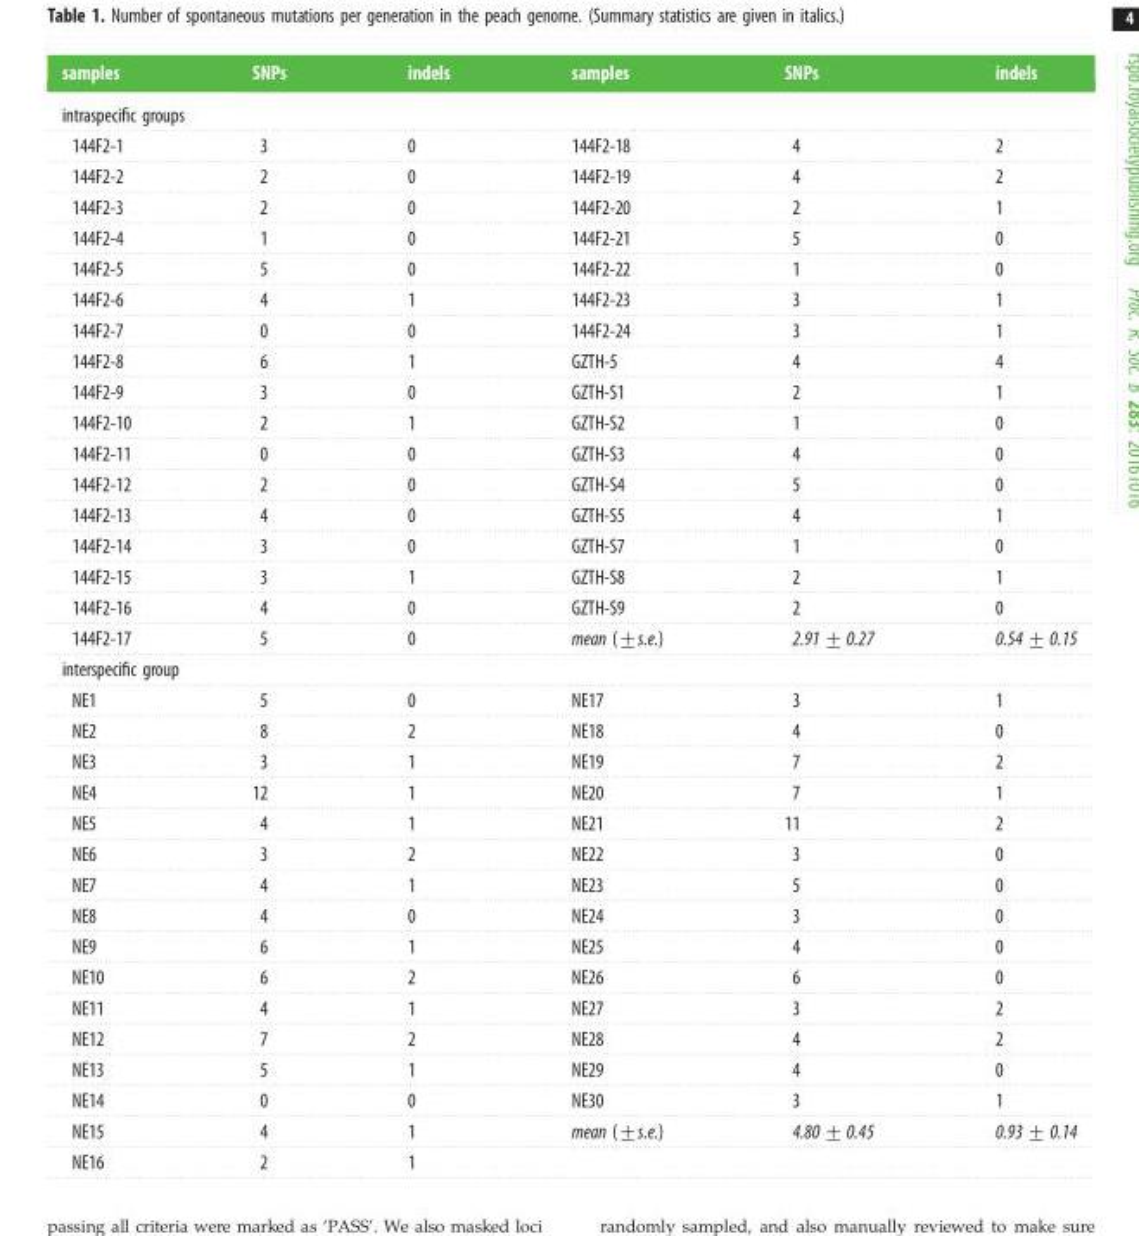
<table><thead><tr><td>samples</td><td>SNPs</td><td>indels</td><td>samples</td><td>SNPs</td><td>indels</td></tr></thead><tbody><tr><td colspan="6">intraspecific groups</td></tr><tr><td>144F2-1</td><td>3</td><td>0</td><td>144F2-18</td><td>4</td><td>2</td></tr><tr><td>144F2-2</td><td>2</td><td>0</td><td>144F2-19</td><td>4</td><td>2</td></tr><tr><td>144F2-3</td><td>2</td><td>0</td><td>144F2-20</td><td>2</td><td>1</td></tr><tr><td>144F2-4</td><td>1</td><td>0</td><td>144F2-21</td><td>5</td><td>0</td></tr><tr><td>144F2-5</td><td>5</td><td>0</td><td>144F2-22</td><td>1</td><td>0</td></tr><tr><td>144F2-6</td><td>4</td><td>1</td><td>144F2-23</td><td>3</td><td>1</td></tr><tr><td>144F2-7</td><td>0</td><td>0</td><td>144F2-24</td><td>3</td><td>1</td></tr><tr><td>144F2-8</td><td>6</td><td>1</td><td>GZTH-5</td><td>4</td><td>4</td></tr><tr><td>144F2-9</td><td>3</td><td>0</td><td>GZTH-S1</td><td>2</td><td>1</td></tr><tr><td>144F2-10</td><td>2</td><td>1</td><td>GZTH-S2</td><td>1</td><td>0</td></tr><tr><td>144F2-11</td><td>0</td><td>0</td><td>GZTH-S3</td><td>4</td><td>0</td></tr><tr><td>144F2-12</td><td>2</td><td>0</td><td>GZTH-S4</td><td>5</td><td>0</td></tr><tr><td>144F2-13</td><td>4</td><td>0</td><td>GZTH-S5</td><td>4</td><td>1</td></tr><tr><td>144F2-14</td><td>3</td><td>0</td><td>GZTH-S7</td><td>1</td><td>0</td></tr><tr><td>144F2-15</td><td>3</td><td>1</td><td>GZTH-S8</td><td>2</td><td>1</td></tr><tr><td>144F2-16</td><td>4</td><td>0</td><td>GZTH-S9</td><td>2</td><td>0</td></tr><tr><td>144F2-17</td><td>5</td><td>0</td><td>mean (+s.e.)</td><td>2.91+ 0.27</td><td>0.54+ 0.15</td></tr><tr><td colspan="6">interspecific group</td></tr><tr><td>NE1</td><td>5</td><td>0</td><td>NE17</td><td>3</td><td>1</td></tr><tr><td>NE2</td><td>8</td><td>2</td><td>NE18</td><td>4</td><td>0</td></tr><tr><td>NE3</td><td>3</td><td>1</td><td>NE19</td><td>7</td><td>2</td></tr><tr><td>NE4</td><td>12</td><td>1</td><td>NE20</td><td>7</td><td>1</td></tr><tr><td>NE5</td><td>4</td><td>1</td><td>NE21</td><td>11</td><td>2</td></tr><tr><td>NE6</td><td>3</td><td>2</td><td>NE22</td><td>3</td><td>0</td></tr><tr><td>NE7</td><td>4</td><td>1</td><td>NE23</td><td>5</td><td>0</td></tr><tr><td>NE8</td><td>4</td><td>0</td><td>NE24</td><td>3</td><td>0</td></tr><tr><td>NE9</td><td>6</td><td>1</td><td>NE25</td><td>4</td><td>0</td></tr><tr><td>NE10</td><td>6</td><td>2</td><td>NE26</td><td>6</td><td>0</td></tr><tr><td>NE11</td><td>4</td><td>1</td><td>NE27</td><td>3</td><td>2</td></tr><tr><td>NE12</td><td>7</td><td>2</td><td>NE28</td><td>4</td><td>2</td></tr><tr><td>NE13</td><td>5</td><td>1</td><td>NE29</td><td>4</td><td>0</td></tr><tr><td>NE14</td><td>0</td><td>0</td><td>NE30</td><td>3</td><td>1</td></tr><tr><td>NE15</td><td>4</td><td>1</td><td>mean (+s.e.)</td><td>4.80+ 0.45</td><td>0.93+ 0.14</td></tr><tr><td>NE16</td><td>2</td><td>1</td><td></td><td></td><td></td></tr></tbody></table>